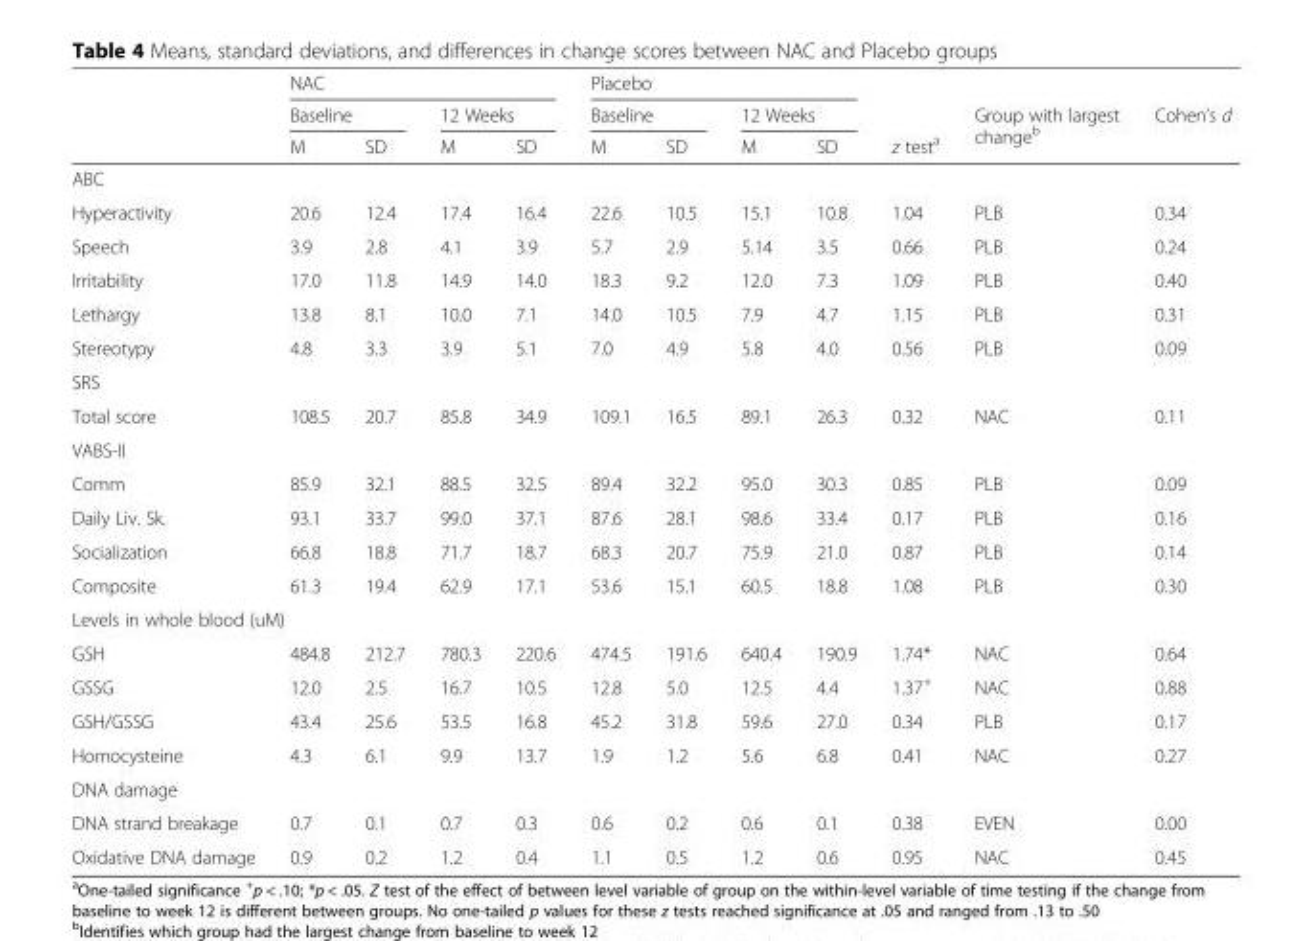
<table><thead><tr><td rowspan="3"></td><td colspan="4">NAC</td><td colspan="4">Placebo</td><td rowspan="3">z test<sup>a</sup></td><td rowspan="3">Group with largest change<sup>b</sup></td><td rowspan="3">Cohen’s d</td></tr><tr><td colspan="2">Baseline</td><td colspan="2">12 Weeks</td><td colspan="2">Baseline</td><td colspan="2">12 Weeks</td></tr><tr><td>M</td><td>SD</td><td>M</td><td>SD</td><td>M</td><td>SD</td><td>M</td><td>SD</td></tr></thead><tbody><tr><td colspan="12">ABC</td></tr><tr><td>Hyperactivity</td><td>20.6</td><td>12.4</td><td>17.4</td><td>16.4</td><td>22.6</td><td>10.5</td><td>15.1</td><td>10.8</td><td>1.04</td><td>PLB</td><td>0.34</td></tr><tr><td>Speech</td><td>3.9</td><td>2.8</td><td>4.1</td><td>3.9</td><td>5.7</td><td>2.9</td><td>5.14</td><td>3.5</td><td>0.66</td><td>PLB</td><td>0.24</td></tr><tr><td>Irritability</td><td>17.0</td><td>11.8</td><td>14.9</td><td>14.0</td><td>18.3</td><td>9.2</td><td>12.0</td><td>7.3</td><td>1.09</td><td>PLB</td><td>0.40</td></tr><tr><td>Lethargy</td><td>13.8</td><td>8.1</td><td>10.0</td><td>7.1</td><td>14.0</td><td>10.5</td><td>7.9</td><td>4.7</td><td>1.15</td><td>PLB</td><td>0.31</td></tr><tr><td>Stereotypy</td><td>4.8</td><td>3.3</td><td>3.9</td><td>5.1</td><td>7.0</td><td>4.9</td><td>5.8</td><td>4.0</td><td>0.56</td><td>PLB</td><td>0.09</td></tr><tr><td colspan="12">SRS</td></tr><tr><td>Total score</td><td>108.5</td><td>20.7</td><td>85.8</td><td>34.9</td><td>109.1</td><td>16.5</td><td>89.1</td><td>26.3</td><td>0.32</td><td>NAC</td><td>0.11</td></tr><tr><td colspan="12">VABS-II</td></tr><tr><td>Comm</td><td>85.9</td><td>32.1</td><td>88.5</td><td>32.5</td><td>89.4</td><td>32.2</td><td>95.0</td><td>30.3</td><td>0.85</td><td>PLB</td><td>0.09</td></tr><tr><td>Daily Liv. Sk.</td><td>93.1</td><td>33.7</td><td>99.0</td><td>37.1</td><td>87.6</td><td>28.1</td><td>98.6</td><td>33.4</td><td>0.17</td><td>PLB</td><td>0.16</td></tr><tr><td>Socialization</td><td>66.8</td><td>18.8</td><td>71.7</td><td>18.7</td><td>68.3</td><td>20.7</td><td>75.9</td><td>21.0</td><td>0.87</td><td>PLB</td><td>0.14</td></tr><tr><td>Composite</td><td>61.3</td><td>19.4</td><td>62.9</td><td>17.1</td><td>53.6</td><td>15.1</td><td>60.5</td><td>18.8</td><td>1.08</td><td>PLB</td><td>0.30</td></tr><tr><td colspan="12">Levels in whole blood (uM)</td></tr><tr><td>GSH</td><td>484.8</td><td>212.7</td><td>780.3</td><td>220.6</td><td>474.5</td><td>191.6</td><td>640.4</td><td>190.9</td><td>1.74*</td><td>NAC</td><td>0.64</td></tr><tr><td>GSSG</td><td>12.0</td><td>2.5</td><td>16.7</td><td>10.5</td><td>12.8</td><td>5.0</td><td>12.5</td><td>4.4</td><td>1.37<sup>+</sup></td><td>NAC</td><td>0.88</td></tr><tr><td>GSH/GSSG</td><td>43.4</td><td>25.6</td><td>53.5</td><td>16.8</td><td>45.2</td><td>31.8</td><td>59.6</td><td>27.0</td><td>0.34</td><td>PLB</td><td>0.17</td></tr><tr><td>Homocysteine</td><td>4.3</td><td>6.1</td><td>9.9</td><td>13.7</td><td>1.9</td><td>1.2</td><td>5.6</td><td>6.8</td><td>0.41</td><td>NAC</td><td>0.27</td></tr><tr><td colspan="12">DNA damage</td></tr><tr><td>DNA strand breakage</td><td>0.7</td><td>0.1</td><td>0.7</td><td>0.3</td><td>0.6</td><td>0.2</td><td>0.6</td><td>0.1</td><td>0.38</td><td>EVEN</td><td>0.00</td></tr><tr><td>Oxidative DNA damage</td><td>0.9</td><td>0.2</td><td>1.2</td><td>0.4</td><td>1.1</td><td>0.5</td><td>1.2</td><td>0.6</td><td>0.95</td><td>NAC</td><td>0.45</td></tr></tbody></table>